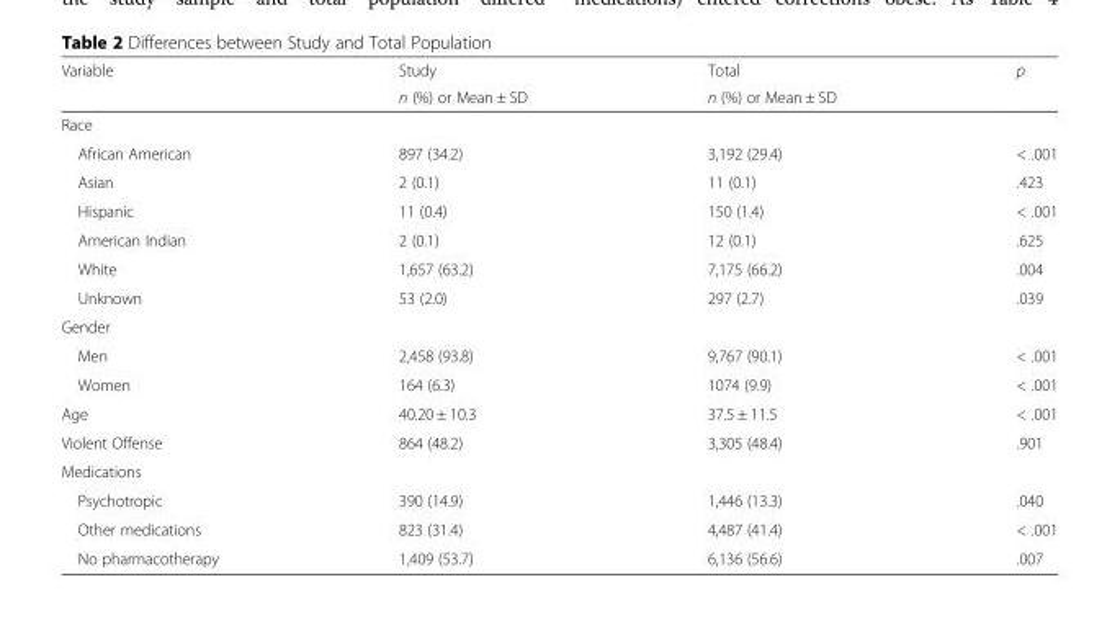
<table><thead><tr><td rowspan="2">Variable</td><td rowspan="2">Study n (%) or Mean ± SD</td><td rowspan="2">Total n (%) or Mean ± SD</td><td rowspan="2">p</td></tr><tr></tr></thead><tbody><tr><td colspan="4">Race</td></tr><tr><td>African American</td><td>897 (34.2)</td><td>3,192 (29.4)</td><td>&lt; .001</td></tr><tr><td>Asian</td><td>2 (0.1)</td><td>11 (0.1)</td><td>.423</td></tr><tr><td>Hispanic</td><td>11 (0.4)</td><td>150 (1.4)</td><td>&lt; .001</td></tr><tr><td>American Indian</td><td>2 (0.1)</td><td>12 (0.1)</td><td>.625</td></tr><tr><td>White</td><td>1,657 (63.2)</td><td>7,175 (66.2)</td><td>.004</td></tr><tr><td>Unknown</td><td>53 (2.0)</td><td>297 (2.7)</td><td>.039</td></tr><tr><td colspan="4">Gender</td></tr><tr><td>Men</td><td>2,458 (93.8)</td><td>9,767 (90.1)</td><td>&lt; .001</td></tr><tr><td>Women</td><td>164 (6.3)</td><td>1074 (9.9)</td><td>&lt; .001</td></tr><tr><td>Age</td><td>40.20 ± 10.3</td><td>37.5 ± 11.5</td><td>&lt; .001</td></tr><tr><td>Violent Offense</td><td>864 (48.2)</td><td>3,305 (48.4)</td><td>.901</td></tr><tr><td colspan="4">Medications</td></tr><tr><td>Psychotropic</td><td>390 (14.9)</td><td>1,446 (13.3)</td><td>.040</td></tr><tr><td>Other medications</td><td>823 (31.4)</td><td>4,487 (41.4)</td><td>&lt; .001</td></tr><tr><td>No pharmacotherapy</td><td>1,409 (53.7)</td><td>6,136 (56.6)</td><td>.007</td></tr></tbody></table>